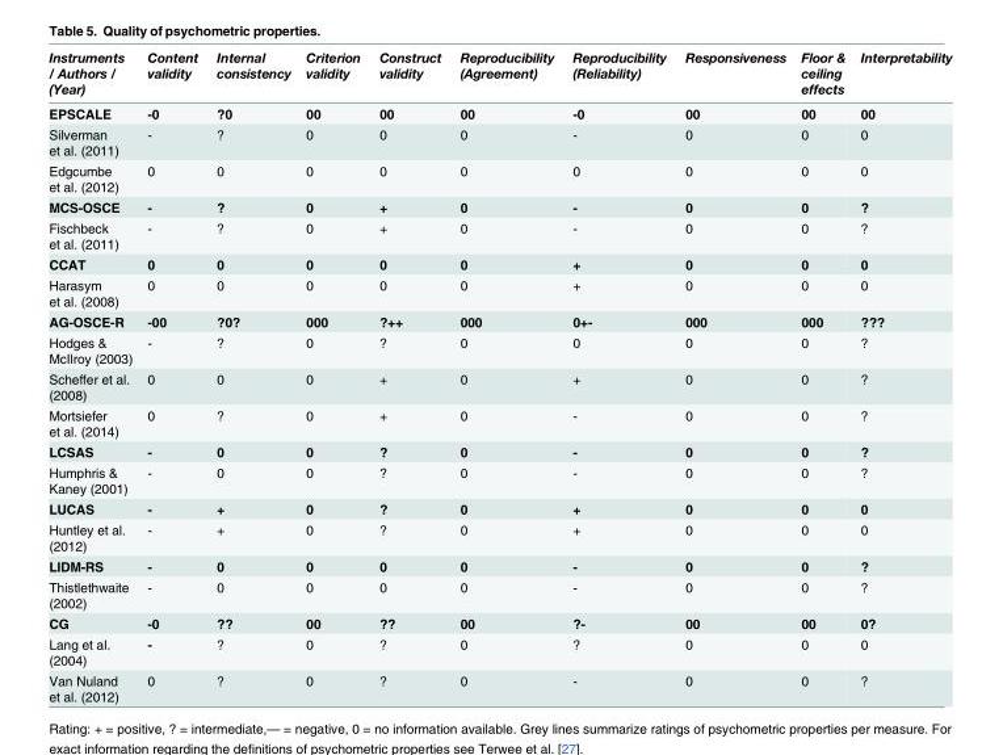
<table><thead><tr><td>Instruments / Authors / (Year)</td><td>Content validity</td><td>Internal consistency</td><td>Criterion validity</td><td>Construct validity</td><td>Reproducibility (Agreement)</td><td>Reproducibility (Reliability)</td><td>Responsiveness</td><td>Floor &amp; ceiling effects</td><td>Interpretability</td></tr></thead><tbody><tr><td>EPSCALE</td><td>-0</td><td>?0</td><td>00</td><td>00</td><td>00</td><td>-0</td><td>00</td><td>00</td><td>00</td></tr><tr><td>Silverman et al. (2011)</td><td>-</td><td>?</td><td>0</td><td>0</td><td>0</td><td>-</td><td>0</td><td>0</td><td>0</td></tr><tr><td>Edgcumbe et al. (2012)</td><td>0</td><td>0</td><td>0</td><td>0</td><td>0</td><td>0</td><td>0</td><td>0</td><td>0</td></tr><tr><td>MCS-OSCE</td><td>-</td><td>?</td><td>0</td><td>+</td><td>0</td><td>-</td><td>0</td><td>0</td><td>?</td></tr><tr><td>Fischbeck et al. (2011)</td><td>-</td><td>?</td><td>0</td><td>+</td><td>0</td><td>-</td><td>0</td><td>0</td><td>?</td></tr><tr><td>CCAT</td><td>0</td><td>0</td><td>0</td><td>0</td><td>0</td><td>+</td><td>0</td><td>0</td><td>0</td></tr><tr><td>Harasym et al. (2008)</td><td>0</td><td>0</td><td>0</td><td>0</td><td>0</td><td>+</td><td>0</td><td>0</td><td>0</td></tr><tr><td>AG-OSCE-R</td><td>-00</td><td>?0?</td><td>000</td><td>?++</td><td>000</td><td>0+-</td><td>000</td><td>000</td><td>???</td></tr><tr><td>Hodges &amp; McIlroy (2003)</td><td>-</td><td>?</td><td>0</td><td>?</td><td>0</td><td>0</td><td>0</td><td>0</td><td>?</td></tr><tr><td>Scheffer et al. (2008)</td><td>0</td><td>0</td><td>0</td><td>+</td><td>0</td><td>+</td><td>0</td><td>0</td><td>?</td></tr><tr><td>Mortsiefer et al. (2014)</td><td>0</td><td>?</td><td>0</td><td>+</td><td>0</td><td>-</td><td>0</td><td>0</td><td>?</td></tr><tr><td>LCSAS</td><td>-</td><td>0</td><td>0</td><td>?</td><td>0</td><td>-</td><td>0</td><td>0</td><td>?</td></tr><tr><td>Humphris &amp; Kaney (2001)</td><td>-</td><td>0</td><td>0</td><td>?</td><td>0</td><td>-</td><td>0</td><td>0</td><td>?</td></tr><tr><td>LUCAS</td><td>-</td><td>+</td><td>0</td><td>?</td><td>0</td><td>+</td><td>0</td><td>0</td><td>0</td></tr><tr><td>Huntley et al. (2012)</td><td>-</td><td>+</td><td>0</td><td>?</td><td>0</td><td>+</td><td>0</td><td>0</td><td>0</td></tr><tr><td>LIDM-RS</td><td>-</td><td>0</td><td>0</td><td>0</td><td>0</td><td>-</td><td>0</td><td>0</td><td>?</td></tr><tr><td>Thistlethwaite (2002)</td><td>-</td><td>0</td><td>0</td><td>0</td><td>0</td><td>-</td><td>0</td><td>0</td><td>?</td></tr><tr><td>CG</td><td>-0</td><td>??</td><td>00</td><td>??</td><td>00</td><td>?-</td><td>00</td><td>00</td><td>0?</td></tr><tr><td>Lang et al. (2004)</td><td>-</td><td>?</td><td>0</td><td>?</td><td>0</td><td>?</td><td>0</td><td>0</td><td>0</td></tr><tr><td>Van Nuland et al. (2012)</td><td>0</td><td>?</td><td>0</td><td>?</td><td>0</td><td>-</td><td>0</td><td>0</td><td>?</td></tr></tbody></table>